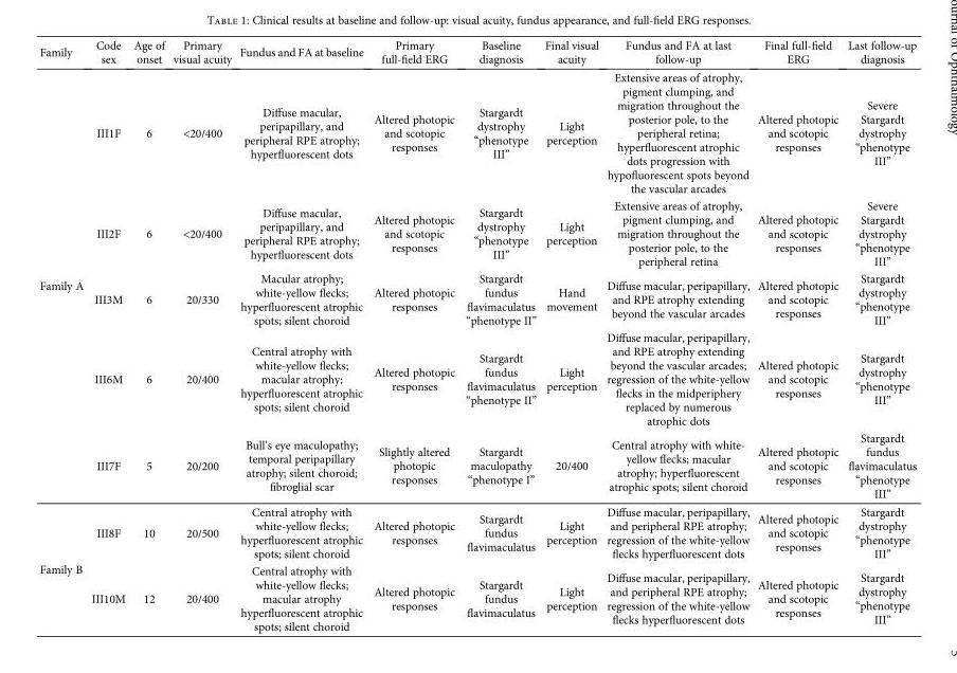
<table><thead><tr><td>Family</td><td>Code sex</td><td>Age of onset</td><td>Primary visual acuity</td><td>Fundus and FA at baseline</td><td>Primary full-field ERG</td><td>Baseline diagnosis</td><td>Final visual acuity</td><td>Fundus and FA at last follow-up</td><td>Final full-field ERG</td><td>Last follow-up diagnosis</td></tr></thead><tbody><tr><td rowspan="5">Family A</td><td>III1F</td><td>6</td><td>&lt;20/400</td><td>Diffuse macular, peripapillary, and peripheral RPE atrophy; hyperfluorescent dots</td><td>Altered photopic and scotopic responses</td><td>Stargardt dystrophy “phenotype III”</td><td>Light perception</td><td>Extensive areas of atrophy, pigment clumping, and migration throughout the posterior pole, to the peripheral retina; hyperfluorescent atrophic dots progression with hypofluorescent spots beyond the vascular arcades</td><td>Altered photopic and scotopic responses</td><td>Severe Stargardt dystrophy “phenotype III”</td></tr><tr><td>III2F</td><td>6</td><td>&lt;20/400</td><td>Diffuse macular, peripapillary, and peripheral RPE atrophy; hyperfluorescent dots</td><td>Altered photopic and scotopic responses</td><td>Stargardt dystrophy “phenotype III”</td><td>Light perception</td><td>Extensive areas of atrophy, pigment clumping, and migration throughout the posterior pole, to the peripheral retina</td><td>Altered photopic and scotopic responses</td><td>Severe Stargardt dystrophy “phenotype III”</td></tr><tr><td>III3M</td><td>6</td><td>20/330</td><td>Macular atrophy; white-yellow flecks; hyperfluorescent atrophic spots; silent choroid</td><td>Altered photopic responses</td><td>Stargardt fundus flavimaculatus “phenotype II”</td><td>Hand movement</td><td>Diffuse macular, peripapillary, and RPE atrophy extending beyond the vascular arcades</td><td>Altered photopic and scotopic responses</td><td>Stargardt dystrophy “phenotype III”</td></tr><tr><td>III6M</td><td>6</td><td>20/400</td><td>Central atrophy with white-yellow flecks; macular atrophy; hyperfluorescent atrophic spots; silent choroid</td><td>Altered photopic responses</td><td>Stargardt fundus flavimaculatus “phenotype II”</td><td>Light perception</td><td>Diffuse macular, peripapillary, and RPE atrophy extending beyond the vascular arcades; regression of the white-yellow flecks in the midperiphery replaced by numerous atrophic dots</td><td>Altered photopic and scotopic responses</td><td>Stargardt dystrophy “phenotype III”</td></tr><tr><td>III7F</td><td>5</td><td>20/200</td><td>Bull’s eye maculopathy; temporal peripapillary atrophy; silent choroid; fibroglial scar</td><td>Slightly altered photopic responses</td><td>Stargardt maculopathy “phenotype I”</td><td>20/400</td><td>Central atrophy with white- yellow flecks; macular atrophy; hyperfluorescent atrophic spots; silent choroid</td><td>Altered photopic and scotopic responses</td><td>Stargardt fundus flavimaculatus “phenotype III”</td></tr><tr><td rowspan="2">Family B</td><td>III8F</td><td>10</td><td>20/500</td><td>Central atrophy with white-yellow flecks; hyperfluorescent atrophic spots; silent choroid</td><td>Altered photopic responses</td><td>Stargardt fundus flavimaculatus</td><td>Light perception</td><td>Diffuse macular, peripapillary, and peripheral RPE atrophy; regression of the white-yellow flecks hyperfluorescent dots</td><td>Altered photopic and scotopic responses</td><td>Stargardt dystrophy “phenotype III”</td></tr><tr><td>III10M</td><td>12</td><td>20/400</td><td>Central atrophy with white-yellow flecks; macular atrophy hyperfluorescent atrophic spots; silent choroid</td><td>Altered photopic responses</td><td>Stargardt fundus flavimaculatus</td><td>Light perception</td><td>Diffuse macular, peripapillary, and peripheral RPE atrophy; regression of the white-yellow flecks hyperfluorescent dots</td><td>Altered photopic and scotopic responses</td><td>Stargardt dystrophy “phenotype III”</td></tr></tbody></table>